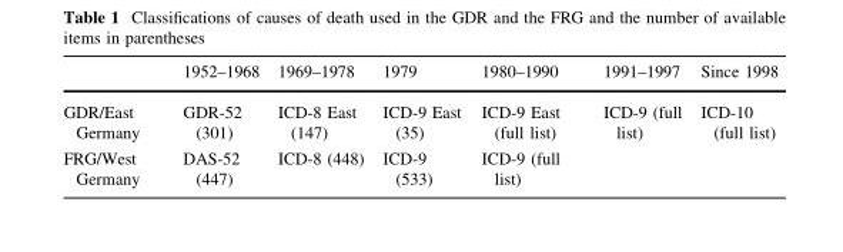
<table><thead><tr><td></td><td>1952–1968</td><td>1969–1978</td><td>1979</td><td>1980–1990</td><td>1991–1997</td><td>Since 1998</td></tr></thead><tbody><tr><td>GDR/East Germany</td><td>GDR-52 (301)</td><td>ICD-8 East (147)</td><td>ICD-9 East (35)</td><td>ICD-9 East (full list)</td><td rowspan="2">ICD-9 (full list)</td><td rowspan="2">ICD-10 (full list)</td></tr><tr><td>FRG/West Germany</td><td>DAS-52 (447)</td><td>ICD-8 (448)</td><td>ICD-9 (533)</td><td>ICD-9 (full list)</td></tr></tbody></table>